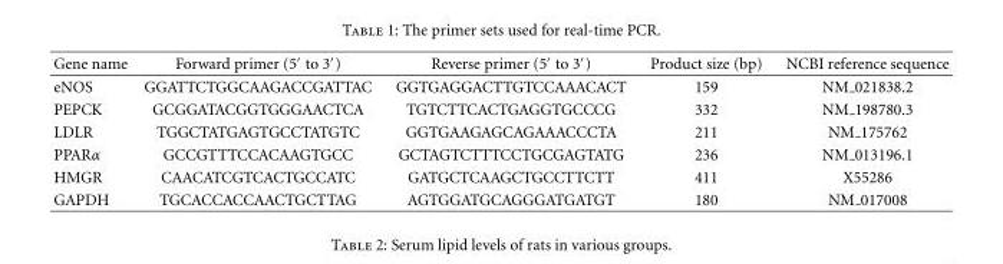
<table><thead><tr><td>Gene name</td><td>Forward primer (5′ to 3′)</td><td>Reverse primer (5′ to 3′)</td><td>Product size (bp)</td><td>NCBI reference sequence</td></tr></thead><tbody><tr><td>eNOS</td><td>GGATTCTGGCAAGACCGATTAC</td><td>GGTGAGGACTTGTCCAAACACT</td><td>159</td><td>NM 021838.2</td></tr><tr><td>PEPCK</td><td>GCGGATACGGTGGGAACTCA</td><td>TGTCTTCACTGAGGTGCCCG</td><td>332</td><td>NM 198780.3</td></tr><tr><td>LDLR</td><td>TGGCTATGAGTGCCTATGTC</td><td>GGTGAAGAGCAGAAACCCTA</td><td>211</td><td>NM 175762</td></tr><tr><td>PPARα</td><td>GCCGTTTCCACAAGTGCC</td><td>GCTAGTCTTTCCTGCGAGTATG</td><td>236</td><td>NM 013196.1</td></tr><tr><td>HMGR</td><td>CAACATCGTCACTGCCATC</td><td>GATGCTCAAGCTGCCTTCTT</td><td>411</td><td>X55286</td></tr><tr><td>GAPDH</td><td>TGCACCACCAACTGCTTAG</td><td>AGTGGATGCAGGGATGATGT</td><td>180</td><td>NM 017008</td></tr></tbody></table>